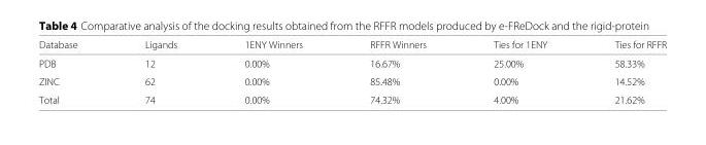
<table><thead><tr><td>Database</td><td>Ligands</td><td>1ENY Winners</td><td>RFFR Winners</td><td>Ties for 1ENY</td><td>Ties for RFFR</td></tr></thead><tbody><tr><td>PDB</td><td>12</td><td>0.00%</td><td>16.67%</td><td>25.00%</td><td>58.33%</td></tr><tr><td>ZINC</td><td>62</td><td>0.00%</td><td>85.48%</td><td>0.00%</td><td>14.52%</td></tr><tr><td>Total</td><td>74</td><td>0.00%</td><td>74.32%</td><td>4.00%</td><td>21.62%</td></tr></tbody></table>